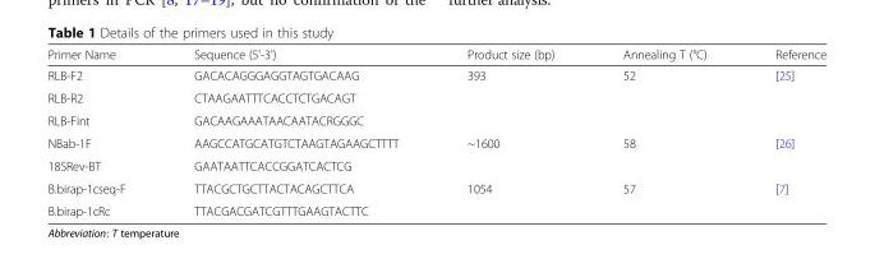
<table><thead><tr><td>Primer Name</td><td>Sequence (5&#x27;-3&#x27;)</td><td>Product size (bp)</td><td>Annealing T (°C)</td><td>Reference</td></tr></thead><tbody><tr><td>RLB-F2</td><td>GACACAGGGAGGTAGTGACAAG</td><td rowspan="3">393</td><td rowspan="3">52</td><td rowspan="3">[25]</td></tr><tr><td>RLB-R2</td><td>CTAAGAATTTCACCTCTGACAGT</td></tr><tr><td>RLB-Fint</td><td>GACAAGAAATAACAATACRGGGC</td></tr><tr><td>NBab-1F</td><td>AAGCCATGCATGTCTAAGTAGAAGCTTTT</td><td rowspan="2">~1600</td><td rowspan="2">58</td><td rowspan="2">[26]</td></tr><tr><td>18SRev-BT</td><td>GAATAATTCACCGGATCACTCG</td></tr><tr><td>B.birap-1cseq-F</td><td>TTACGCTGCTTACTACAGCTTCA</td><td rowspan="2">1054</td><td rowspan="2">57</td><td rowspan="2">[7]</td></tr><tr><td>B.birap-1cRc</td><td>TTACGACGATCGTTTGAAGTACTTC</td></tr></tbody></table>